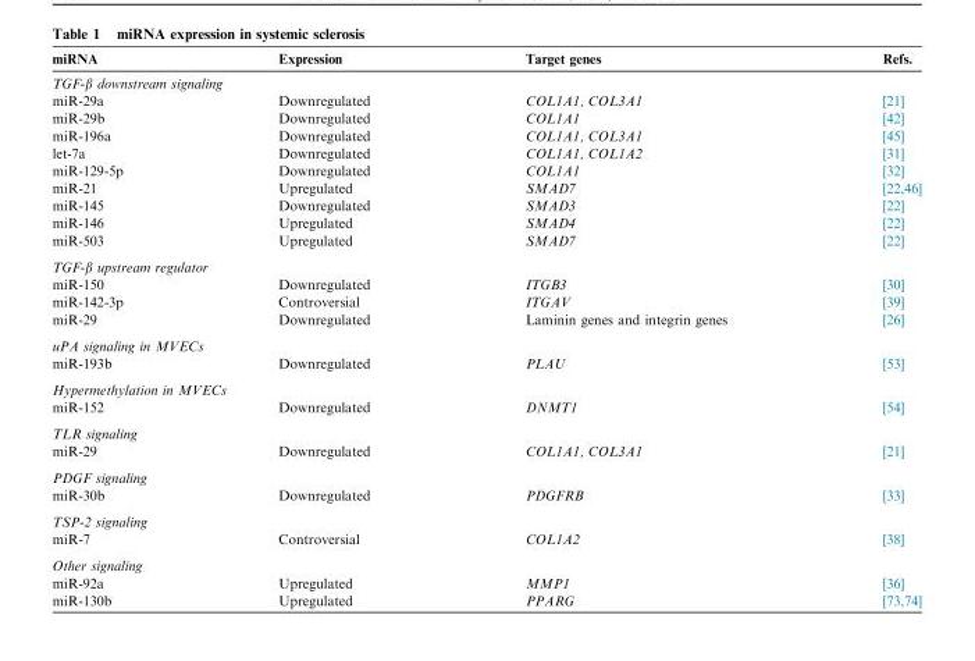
<table><thead><tr><td>miRNA</td><td>Expression</td><td>Target genes</td><td>Refs.</td></tr></thead><tbody><tr><td colspan="4">TGF-β downstream signaling</td></tr><tr><td>miR-29a</td><td>Downregulated</td><td>COL1A1, COL3A1</td><td>[21]</td></tr><tr><td>miR-29b</td><td>Downregulated</td><td>COL1A1</td><td>[42]</td></tr><tr><td>miR-196a</td><td>Downregulated</td><td>COL1A1, COL3A1</td><td>[45]</td></tr><tr><td>let-7a</td><td>Downregulated</td><td>COL1A1, COL1A2</td><td>[31]</td></tr><tr><td>miR-129-5p</td><td>Downregulated</td><td>COL1A1</td><td>[32]</td></tr><tr><td>miR-21</td><td>Upregulated</td><td>SMAD7</td><td>[22,46]</td></tr><tr><td>miR-145</td><td>Downregulated</td><td>SMAD3</td><td>[22]</td></tr><tr><td>miR-146</td><td>Upregulated</td><td>SMAD4</td><td>[22]</td></tr><tr><td>miR-503</td><td>Upregulated</td><td>SMAD7</td><td>[22]</td></tr><tr><td colspan="4">TGF-β upstream regulator</td></tr><tr><td>miR-150</td><td>Downregulated</td><td>ITGB3</td><td>[30]</td></tr><tr><td>miR-142-3p</td><td>Controversial</td><td>ITGAV</td><td>[39]</td></tr><tr><td>miR-29</td><td>Downregulated</td><td>Laminin genes and integrin genes</td><td>[26]</td></tr><tr><td colspan="4">uPA signaling in MVECs</td></tr><tr><td>miR-193b</td><td>Downregulated</td><td>PLAU</td><td>[53]</td></tr><tr><td colspan="4">Hypermethylation in MVECs</td></tr><tr><td>miR-152</td><td>Downregulated</td><td>DNMT1</td><td>[54]</td></tr><tr><td colspan="4">TLR signaling</td></tr><tr><td>miR-29</td><td>Downregulated</td><td>COL1A1, COL3A1</td><td>[21]</td></tr><tr><td colspan="4">PDGF signaling</td></tr><tr><td>miR-30b</td><td>Downregulated</td><td>PDGFRB</td><td>[33]</td></tr><tr><td colspan="4">TSP-2 signaling</td></tr><tr><td>miR-7</td><td>Controversial</td><td>COL1A2</td><td>[38]</td></tr><tr><td colspan="4">Other signaling</td></tr><tr><td>miR-92a</td><td>Upregulated</td><td>MMP1</td><td>[36]</td></tr><tr><td>miR-130b</td><td>Upregulated</td><td>PPARG</td><td>[73,74]</td></tr></tbody></table>